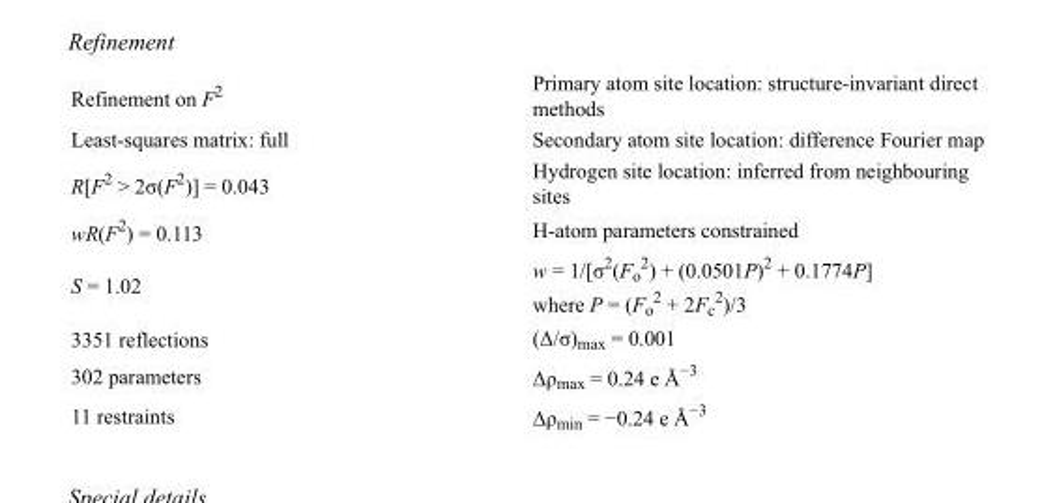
<table><tbody><tr><td>Refinement on F<sup>2</sup></td><td>Primary atom site location: structure-invariant direct methods</td></tr><tr><td>Least-squares matrix: full</td><td>Secondary atom site location: difference Fourier map</td></tr><tr><td>R[F<sup>2</sup> &gt; 2σ(F<sup>2</sup>)] = 0.043</td><td>Hydrogen site location: inferred from neighbouring sites</td></tr><tr><td>wR(F<sup>2</sup>) = 0.113</td><td>H-atom parameters constrained</td></tr><tr><td>S = 1.02</td><td>w = 1/[σ<sup>2</sup>(F<sub>o</sub> <sup>2</sup>) + (0.0501P)<sup>2</sup> + 0.1774P] where P = (F<sub>o</sub> <sup>2</sup> + 2F<sub>c</sub> <sup>2</sup>)/3</td></tr><tr><td>3351 reflections</td><td>(Δ/σ)<sub>max</sub> = 0.001</td></tr><tr><td>302 parameters</td><td>Δρ<sub>max</sub> = 0.24 e Å<sup>−3</sup></td></tr><tr><td>11 restraints</td><td>Δρ<sub>min</sub> = −0.24 e Å<sup>−3</sup></td></tr></tbody></table>